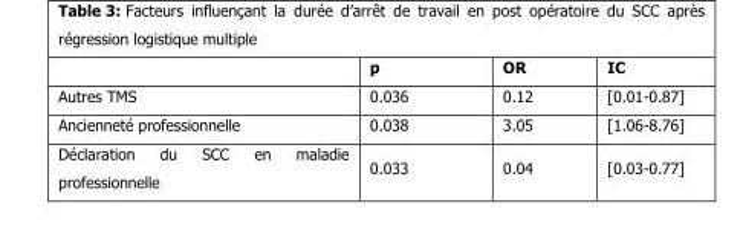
<table><thead><tr><td></td><td>p</td><td>OR</td><td>IC</td></tr></thead><tbody><tr><td>Autres TMS</td><td>0.036</td><td>0.12</td><td>[0.01-0.87]</td></tr><tr><td>Ancienneté professionnelle</td><td>0.038</td><td>3.05</td><td>[1.06-8.76]</td></tr><tr><td>Déclaration du SCC en maladie professionnelle</td><td>0.033</td><td>0.04</td><td>[0.03-0.77]</td></tr></tbody></table>